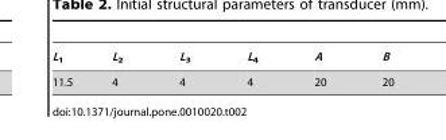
<table><thead><tr><td>L<sub>1</sub></td><td>L<sub>2</sub></td><td>L<sub>3</sub></td><td>L<sub>4</sub></td><td>A</td><td>B</td></tr></thead><tbody><tr><td>11.5</td><td>4</td><td>4</td><td>4</td><td>20</td><td>20</td></tr></tbody></table>